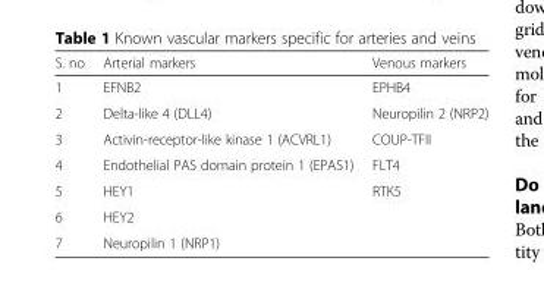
<table><thead><tr><td>S. no</td><td>Arterial markers</td><td>Venous markers</td></tr></thead><tbody><tr><td>1</td><td>EFNB2</td><td>EPHB4</td></tr><tr><td>2</td><td>Delta-like 4 (DLL4)</td><td>Neuropilin 2 (NRP2)</td></tr><tr><td>3</td><td>Activin-receptor-like kinase 1 (ACVRL1)</td><td>COUP-TFII</td></tr><tr><td>4</td><td>Endothelial PAS domain protein 1 (EPAS1)</td><td>FLT4</td></tr><tr><td>5</td><td>HEY1</td><td>RTK5</td></tr><tr><td>6</td><td>HEY2</td><td></td></tr><tr><td>7</td><td>Neuropilin 1 (NRP1)</td><td></td></tr></tbody></table>